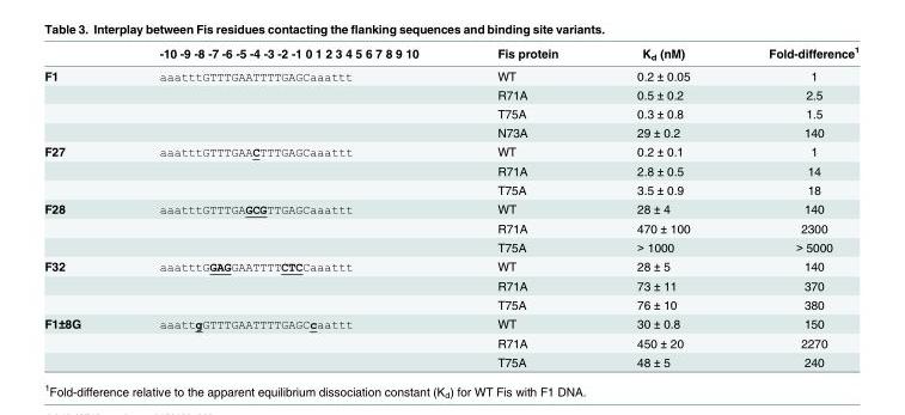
<table><thead><tr><td></td><td>-10 -9 -8 -7 -6 -5 -4 -3 -2 -1 0 1 2 3 4 5 6 7 8 9 10</td><td>Fis protein</td><td>K<sub>d</sub> (nM)</td><td>Fold-difference<sup>1</sup></td></tr></thead><tbody><tr><td rowspan="4">F1</td><td>aaatttGTTTGAATTTTGAGCaaattt</td><td>WT</td><td>0.2 ± 0.05</td><td>1</td></tr><tr><td></td><td>R71A</td><td>0.5 ± 0.2</td><td>2.5</td></tr><tr><td></td><td>T75A</td><td>0.3 ± 0.8</td><td>1.5</td></tr><tr><td></td><td>N73A</td><td>29 ± 0.2</td><td>140</td></tr><tr><td rowspan="3">F27</td><td>aaatttGTTTGAACTTTGAGCaaattt</td><td>WT</td><td>0.2 ± 0.1</td><td>1</td></tr><tr><td></td><td>R71A</td><td>2.8 ± 0.5</td><td>14</td></tr><tr><td></td><td>T75A</td><td>3.5 ± 0.9</td><td>18</td></tr><tr><td rowspan="3">F28</td><td>aaatttGTTTGAGCGTTGAGCaaattt</td><td>WT</td><td>28 ± 4</td><td>140</td></tr><tr><td></td><td>R71A</td><td>470 ± 100</td><td>2300</td></tr><tr><td></td><td>T75A</td><td>&gt; 1000</td><td>&gt; 5000</td></tr><tr><td rowspan="3">F32</td><td>aaatttGGAGGAATTTTCTCCaaattt</td><td>WT</td><td>28 ± 5</td><td>140</td></tr><tr><td></td><td>R71A</td><td>73 ± 11</td><td>370</td></tr><tr><td></td><td>T75A</td><td>76 ± 10</td><td>380</td></tr><tr><td rowspan="3">F1±8G</td><td>aaattgGTTTGAATTTTGAGCcaattt</td><td>WT</td><td>30 ± 0.8</td><td>150</td></tr><tr><td></td><td>R71A</td><td>450 ± 20</td><td>2270</td></tr><tr><td></td><td>T75A</td><td>48 ± 5</td><td>240</td></tr></tbody></table>